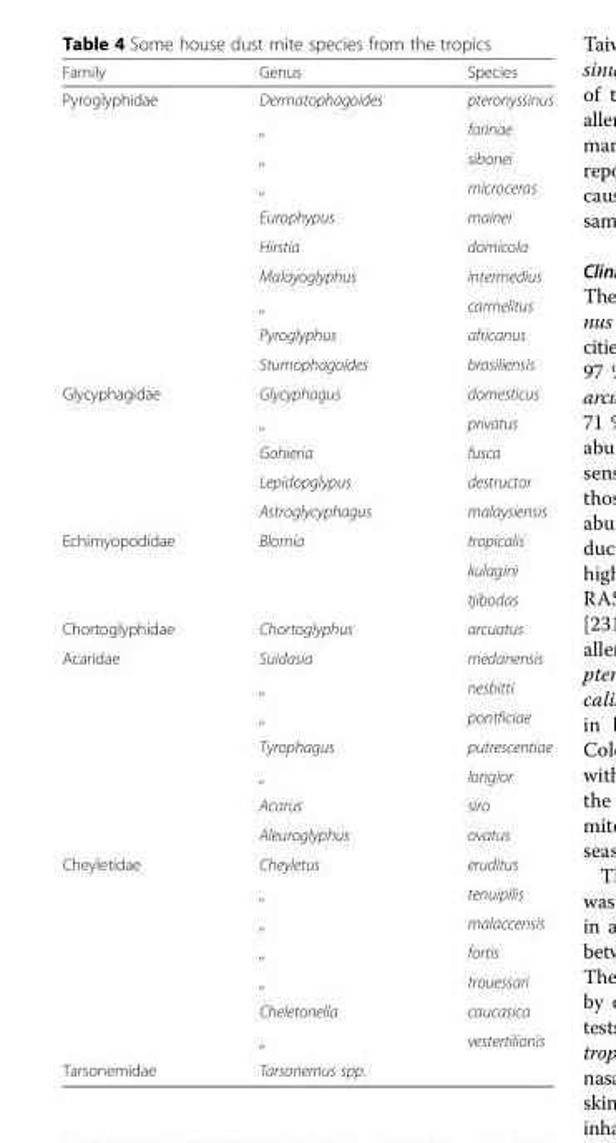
<table><thead><tr><td>Family</td><td>Genus</td><td>Species</td></tr></thead><tbody><tr><td rowspan="10">Pyroglyphidae</td><td>Dermatophagoides</td><td>pteronyssinus</td></tr><tr><td>,,</td><td>farinae</td></tr><tr><td>,,</td><td>sibonei</td></tr><tr><td>,,</td><td>microceras</td></tr><tr><td>Europhypus</td><td>mainei</td></tr><tr><td>Hirstia</td><td>domicola</td></tr><tr><td>Malayoglyphus</td><td>intermedius</td></tr><tr><td>,,</td><td>carmelitus</td></tr><tr><td>Pyroglyphus</td><td>africanus</td></tr><tr><td>Sturnophagoides</td><td>brasiliensis</td></tr><tr><td rowspan="5">Glycyphagidae</td><td>Glycyphagus</td><td>domesticus</td></tr><tr><td>,,</td><td>privatus</td></tr><tr><td>Gohieria</td><td>fusca</td></tr><tr><td>Lepidopglypus</td><td>destructor</td></tr><tr><td>Astroglycyphagus</td><td>malaysiensis</td></tr><tr><td rowspan="3">Echimyopodidae</td><td>Blomia</td><td>tropicalis</td></tr><tr><td></td><td>kulagini</td></tr><tr><td></td><td>tjibodas</td></tr><tr><td>Chortoglyphidae</td><td>Chortoglyphus</td><td>arcuatus</td></tr><tr><td rowspan="7">Acaridae</td><td>Suidasia</td><td>medanensis</td></tr><tr><td>,,</td><td>nesbitti</td></tr><tr><td>,,</td><td>pontficiae</td></tr><tr><td>Tyrophagus</td><td>putrescentiae</td></tr><tr><td>,,</td><td>longior</td></tr><tr><td>Acarus</td><td>siro</td></tr><tr><td>Aleuroglyphus</td><td>ovatus</td></tr><tr><td rowspan="7">Cheyletidae</td><td>Cheyletus</td><td>eruditus</td></tr><tr><td>,,</td><td>tenuipilis</td></tr><tr><td>,,</td><td>malaccensis</td></tr><tr><td>,,</td><td>fortis</td></tr><tr><td>,,</td><td>trouessari</td></tr><tr><td>Cheletonella</td><td>caucasica</td></tr><tr><td>,,</td><td>vestertilionis</td></tr><tr><td>Tarsonemidae</td><td>Tarsonemus spp.</td><td></td></tr></tbody></table>